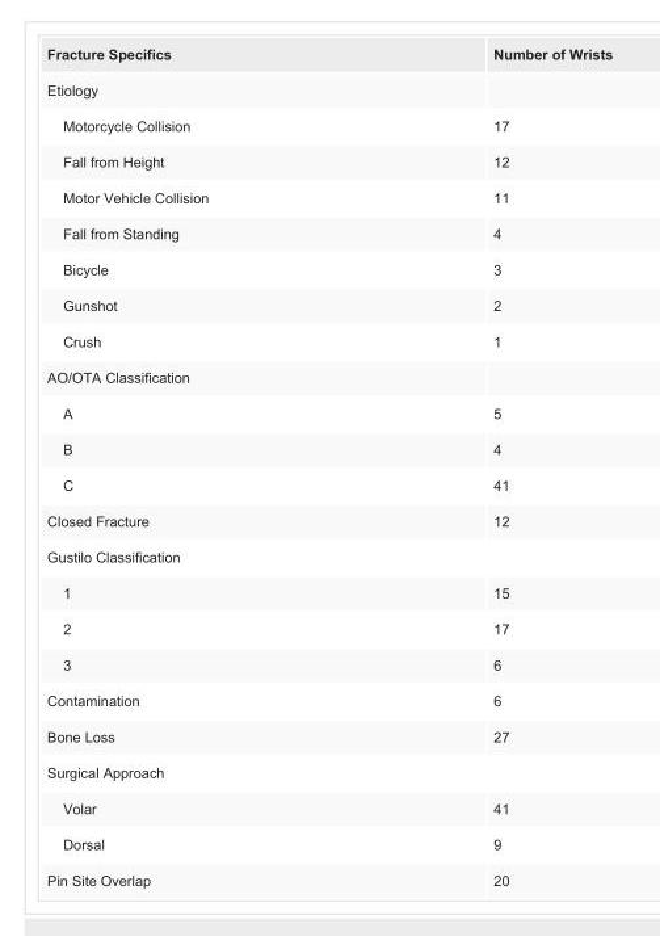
<table><tbody><tr><td>Fracture Specifics</td><td>Number of Wrists</td></tr><tr><td colspan="2">Etiology</td></tr><tr><td>Motorcycle Collision</td><td>17</td></tr><tr><td>Fall from Height</td><td>12</td></tr><tr><td>Motor Vehicle Collision</td><td>11</td></tr><tr><td>Fall from Standing</td><td>4</td></tr><tr><td>Bicycle</td><td>3</td></tr><tr><td>Gunshot</td><td>2</td></tr><tr><td>Crush</td><td>1</td></tr><tr><td colspan="2">AO/OTA Classification</td></tr><tr><td>A</td><td>5</td></tr><tr><td>B</td><td>4</td></tr><tr><td>C</td><td>41</td></tr><tr><td>Closed Fracture</td><td>12</td></tr><tr><td colspan="2">Gustilo Classification</td></tr><tr><td>1</td><td>15</td></tr><tr><td>2</td><td>17</td></tr><tr><td>3</td><td>6</td></tr><tr><td>Contamination</td><td>6</td></tr><tr><td>Bone Loss</td><td>27</td></tr><tr><td colspan="2">Surgical Approach</td></tr><tr><td>Volar</td><td>41</td></tr><tr><td>Dorsal</td><td>9</td></tr><tr><td>Pin Site Overlap</td><td>20</td></tr></tbody></table>